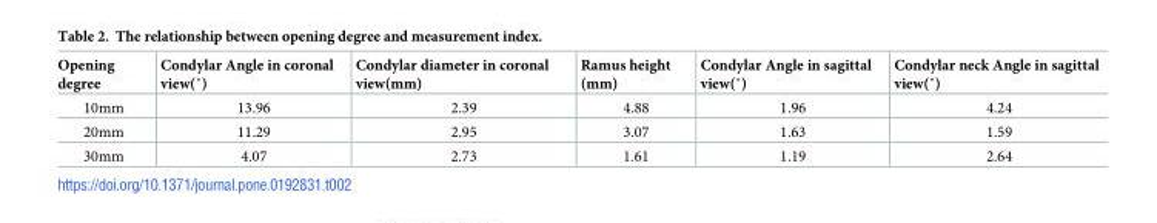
<table><thead><tr><td>Opening degree</td><td>Condylar Angle in coronal view(˚)</td><td>Condylar diameter in coronal view(mm)</td><td>Ramus height (mm)</td><td>Condylar Angle in sagittal view(˚)</td><td>Condylar neck Angle in sagittal view(˚)</td></tr></thead><tbody><tr><td>10mm</td><td>13.96</td><td>2.39</td><td>4.88</td><td>1.96</td><td>4.24</td></tr><tr><td>20mm</td><td>11.29</td><td>2.95</td><td>3.07</td><td>1.63</td><td>1.59</td></tr><tr><td>30mm</td><td>4.07</td><td>2.73</td><td>1.61</td><td>1.19</td><td>2.64</td></tr></tbody></table>